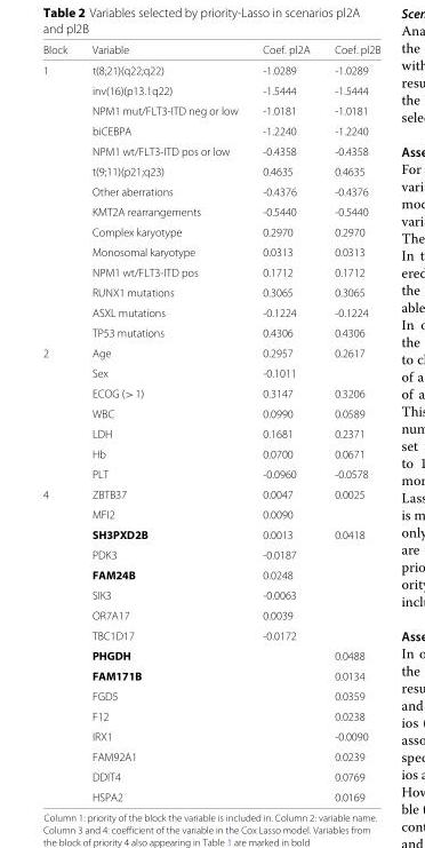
<table><thead><tr><td>Block</td><td>Variable</td><td>Coef. pl2A</td><td>Coef. pl2B</td></tr></thead><tbody><tr><td rowspan="14">1</td><td>t(8;21)(q22;q22)</td><td>-1.0289</td><td>-1.0289</td></tr><tr><td>inv(16)(p13.1q22)</td><td>-1.5444</td><td>-1.5444</td></tr><tr><td>NPM1 mut/FLT3-ITD neg or low</td><td>-1.0181</td><td>-1.0181</td></tr><tr><td>biCEBPA</td><td>-1.2240</td><td>-1.2240</td></tr><tr><td>NPM1 wt/FLT3-ITD pos or low</td><td>-0.4358</td><td>-0.4358</td></tr><tr><td>t(9;11)(p21;q23)</td><td>0.4635</td><td>0.4635</td></tr><tr><td>Other aberrations</td><td>-0.4376</td><td>-0.4376</td></tr><tr><td>KMT2A rearrangements</td><td>-0.5440</td><td>-0.5440</td></tr><tr><td>Complex karyotype</td><td>0.2970</td><td>0.2970</td></tr><tr><td>Monosomal karyotype</td><td>0.0313</td><td>0.0313</td></tr><tr><td>NPM1 wt/FLT3-ITD pos</td><td>0.1712</td><td>0.1712</td></tr><tr><td>RUNX1 mutations</td><td>0.3065</td><td>0.3065</td></tr><tr><td>ASXL mutations</td><td>-0.1224</td><td>-0.1224</td></tr><tr><td>TP53 mutations</td><td>0.4306</td><td>0.4306</td></tr><tr><td rowspan="7">2</td><td>Age</td><td>0.2957</td><td>0.2617</td></tr><tr><td>Sex</td><td>-0.1011</td><td></td></tr><tr><td>ECOG (&gt;1)</td><td>0.3147</td><td>0.3206</td></tr><tr><td>WBC</td><td>0.0990</td><td>0.0589</td></tr><tr><td>LDH</td><td>0.1681</td><td>0.2371</td></tr><tr><td>Hb</td><td>0.0700</td><td>0.0671</td></tr><tr><td>PLT</td><td>-0.0960</td><td>-0.0578</td></tr><tr><td rowspan="16">4</td><td>ZBTB37</td><td>0.0047</td><td>0.0025</td></tr><tr><td>MFI2</td><td>0.0090</td><td></td></tr><tr><td>SH3PXD2B</td><td>0.0013</td><td>0.0418</td></tr><tr><td>PDK3</td><td>-0.0187</td><td></td></tr><tr><td>FAM24B</td><td>0.0248</td><td></td></tr><tr><td>SIK3</td><td>-0.0063</td><td></td></tr><tr><td>OR7A17</td><td>0.0039</td><td></td></tr><tr><td>TBC1D17</td><td>-0.0172</td><td></td></tr><tr><td>PHGDH</td><td></td><td>0.0488</td></tr><tr><td>FAM171B</td><td></td><td>0.0134</td></tr><tr><td>FGD5</td><td></td><td>0.0359</td></tr><tr><td>F12</td><td></td><td>0.0238</td></tr><tr><td>IRX1</td><td></td><td>-0.0090</td></tr><tr><td>FAM92A1</td><td></td><td>0.0239</td></tr><tr><td>DDIT4</td><td></td><td>0.0769</td></tr><tr><td>HSPA2</td><td></td><td>0.0169</td></tr></tbody></table>